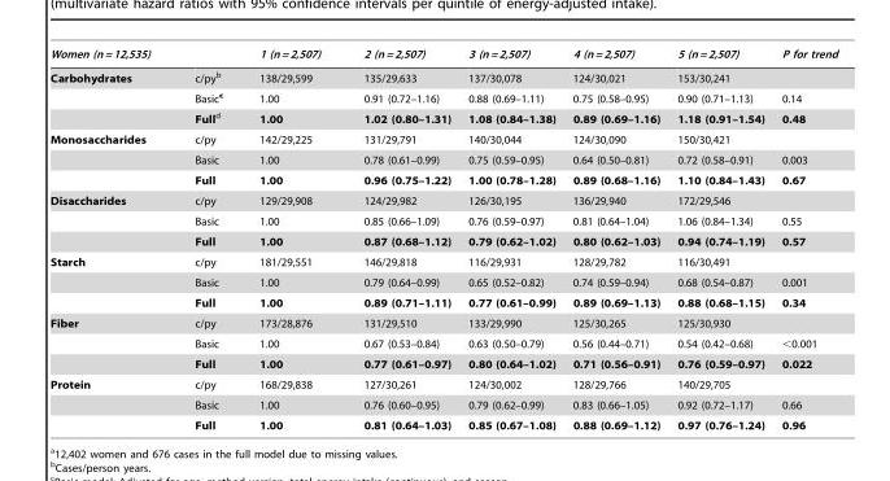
<table><thead><tr><td>Women (n = 12,535)</td><td></td><td>1 (n = 2,507)</td><td>2 (n = 2,507)</td><td>3 (n = 2,507)</td><td>4 (n = 2,507)</td><td>5 (n = 2,507)</td><td>P for trend</td></tr></thead><tbody><tr><td rowspan="3">Carbohydrates</td><td>c/py<sup>b</sup></td><td>138/29,599</td><td>135/29,633</td><td>137/30,078</td><td>124/30,021</td><td>153/30,241</td><td></td></tr><tr><td>Basic<sup>c</sup></td><td>1.00</td><td>0.91 (0.72–1.16)</td><td>0.88 (0.69–1.11)</td><td>0.75 (0.58–0.95)</td><td>0.90 (0.71–1.13)</td><td>0.14</td></tr><tr><td>Fulld</td><td>1.00</td><td>1.02 (0.80–1.31)</td><td>1.08 (0.84–1.38)</td><td>0.89 (0.69–1.16)</td><td>1.18 (0.91–1.54)</td><td>0.48</td></tr><tr><td rowspan="3">Monosaccharides</td><td>c/py</td><td>142/29,225</td><td>131/29,791</td><td>140/30,044</td><td>124/30,090</td><td>150/30,421</td><td></td></tr><tr><td>Basic</td><td>1.00</td><td>0.78 (0.61–0.99)</td><td>0.75 (0.59–0.95)</td><td>0.64 (0.50–0.81)</td><td>0.72 (0.58–0.91)</td><td>0.003</td></tr><tr><td>Full</td><td>1.00</td><td>0.96 (0.75–1.22)</td><td>1.00 (0.78–1.28)</td><td>0.89 (0.68–1.16)</td><td>1.10 (0.84–1.43)</td><td>0.67</td></tr><tr><td rowspan="3">Disaccharides</td><td>c/py</td><td>129/29,908</td><td>124/29,982</td><td>126/30,195</td><td>136/29,940</td><td>172/29,546</td><td></td></tr><tr><td>Basic</td><td>1.00</td><td>0.85 (0.66–1.09)</td><td>0.76 (0.59–0.97)</td><td>0.81 (0.64–1.04)</td><td>1.06 (0.84–1.34)</td><td>0.55</td></tr><tr><td>Full</td><td>1.00</td><td>0.87 (0.68–1.12)</td><td>0.79 (0.62–1.02)</td><td>0.80 (0.62–1.03)</td><td>0.94 (0.74–1.19)</td><td>0.57</td></tr><tr><td rowspan="3">Starch</td><td>c/py</td><td>181/29,551</td><td>146/29,818</td><td>116/29,931</td><td>128/29,782</td><td>116/30,491</td><td></td></tr><tr><td>Basic</td><td>1.00</td><td>0.79 (0.64–0.99)</td><td>0.65 (0.52–0.82)</td><td>0.74 (0.59–0.94)</td><td>0.68 (0.54–0.87)</td><td>0.001</td></tr><tr><td>Full</td><td>1.00</td><td>0.89 (0.71–1.11)</td><td>0.77 (0.61–0.99)</td><td>0.89 (0.69–1.13)</td><td>0.88 (0.68–1.15)</td><td>0.34</td></tr><tr><td rowspan="3">Fiber</td><td>c/py</td><td>173/28,876</td><td>131/29,510</td><td>133/29,990</td><td>125/30,265</td><td>125/30,930</td><td></td></tr><tr><td>Basic</td><td>1.00</td><td>0.67 (0.53–0.84)</td><td>0.63 (0.50–0.79)</td><td>0.56 (0.44–0.71)</td><td>0.54 (0.42–0.68)</td><td>&lt;0.001</td></tr><tr><td>Full</td><td>1.00</td><td>0.77 (0.61–0.97)</td><td>0.80 (0.64–1.02)</td><td>0.71 (0.56–0.91)</td><td>0.76 (0.59–0.97)</td><td>0.022</td></tr><tr><td rowspan="3">Protein</td><td>c/py</td><td>168/29,838</td><td>127/30,261</td><td>124/30,002</td><td>128/29,766</td><td>140/29,705</td><td></td></tr><tr><td>Basic</td><td>1.00</td><td>0.76 (0.60–0.95)</td><td>0.79 (0.62–0.99)</td><td>0.83 (0.66–1.05)</td><td>0.92 (0.72–1.17)</td><td>0.66</td></tr><tr><td>Full</td><td>1.00</td><td>0.81 (0.64–1.03)</td><td>0.85 (0.67–1.08)</td><td>0.88 (0.69–1.12)</td><td>0.97 (0.76–1.24)</td><td>0.96</td></tr></tbody></table>